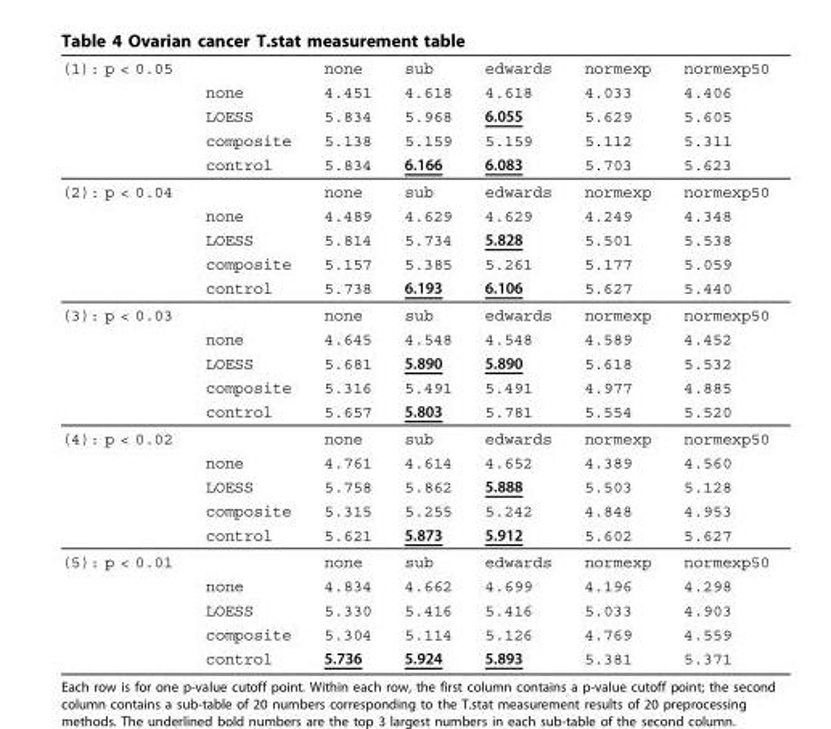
<table><thead><tr><td rowspan="5">(1): p &lt; 0.05</td><td rowspan="5">none LOESS composite control</td><td rowspan="5">none 4.451 5.834 5.138 5.834</td><td rowspan="5">sub 4.618 5.968 5.159 6.166</td><td rowspan="5">edwards 4.618 6.055 5.159 6.083</td><td rowspan="5">normexp 4.033 5.629 5.112 5.703</td><td rowspan="5">normexp50 4.406 5.605 5.311 5.623</td></tr><tr></tr><tr></tr><tr></tr><tr></tr></thead><tbody><tr><td rowspan="5">(2): p &lt; 0.04</td><td></td><td>none</td><td>sub</td><td>edwards</td><td>normexp</td><td>normexp50</td></tr><tr><td>none</td><td>4.489</td><td>4.629</td><td>4.629</td><td>4.249</td><td>4.348</td></tr><tr><td>LOESS</td><td>5.814</td><td>5.734</td><td>5.828</td><td>5.501</td><td>5.538</td></tr><tr><td>composite</td><td>5.157</td><td>5.385</td><td>5.261</td><td>5.177</td><td>5.059</td></tr><tr><td>control</td><td>5.738</td><td>6.193</td><td>6.106</td><td>5.627</td><td>5.440</td></tr><tr><td rowspan="5">(3): p &lt; 0.03</td><td></td><td>none</td><td>sub</td><td>edwards</td><td>normexp</td><td>normexp50</td></tr><tr><td>none</td><td>4.645</td><td>4.548</td><td>4.548</td><td>4.589</td><td>4.452</td></tr><tr><td>LOESS</td><td>5.681</td><td>5.890</td><td>5.890</td><td>5.618</td><td>5.532</td></tr><tr><td>composite</td><td>5.316</td><td>5.491</td><td>5.491</td><td>4.977</td><td>4.885</td></tr><tr><td>control</td><td>5.657</td><td>5.803</td><td>5.781</td><td>5.554</td><td>5.520</td></tr><tr><td rowspan="5">(4): p &lt; 0.02</td><td></td><td>none</td><td>sub</td><td>edwards</td><td>normexp</td><td>normexp50</td></tr><tr><td>none</td><td>4.761</td><td>4.614</td><td>4.652</td><td>4.389</td><td>4.560</td></tr><tr><td>LOESS</td><td>5.758</td><td>5.862</td><td>5.888</td><td>5.503</td><td>5.128</td></tr><tr><td>composite</td><td>5.315</td><td>5.255</td><td>5.242</td><td>4.848</td><td>4.953</td></tr><tr><td>control</td><td>5.621</td><td>5.873</td><td>5.912</td><td>5.602</td><td>5.627</td></tr><tr><td rowspan="5">(5): p &lt; 0.01</td><td></td><td>none</td><td>sub</td><td>edwards</td><td>normexp</td><td>normexp50</td></tr><tr><td>none</td><td>4.834</td><td>4.662</td><td>4.699</td><td>4.196</td><td>4.298</td></tr><tr><td>LOESS</td><td>5.330</td><td>5.416</td><td>5.416</td><td>5.033</td><td>4.903</td></tr><tr><td>composite</td><td>5.304</td><td>5.114</td><td>5.126</td><td>4.769</td><td>4.559</td></tr><tr><td>control</td><td>5.736</td><td>5.924</td><td>5.893</td><td>5.381</td><td>5.371</td></tr></tbody></table>